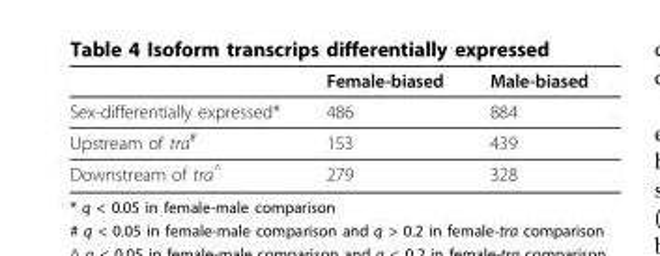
<table><thead><tr><td></td><td>Female-biased</td><td>Male-biased</td></tr></thead><tbody><tr><td>Sex-differentially expressed*</td><td>486</td><td>884</td></tr><tr><td>Upstream of tra<sup>#</sup></td><td>153</td><td>439</td></tr><tr><td>Downstream of tra<sup>^</sup></td><td>279</td><td>328</td></tr></tbody></table>